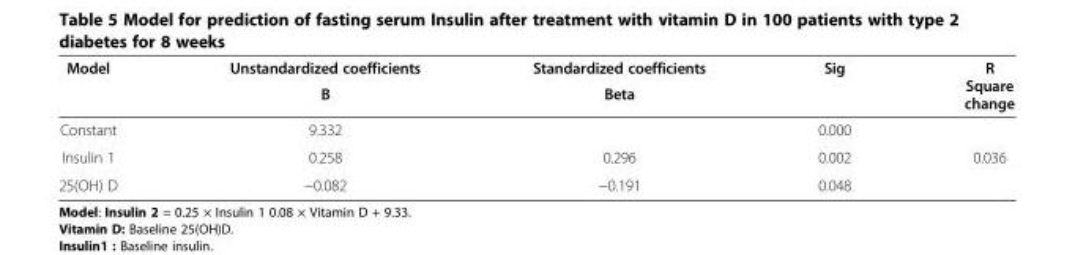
<table><thead><tr><td rowspan="2">Model</td><td rowspan="2">Unstandardized coefficients B</td><td rowspan="2">Standardized coefficients Beta</td><td rowspan="2">Sig</td><td rowspan="2">R Square change</td></tr><tr></tr></thead><tbody><tr><td>Constant</td><td>9.332</td><td></td><td>0.000</td><td></td></tr><tr><td>Insulin 1</td><td>0.258</td><td>0.296</td><td>0.002</td><td>0.036</td></tr><tr><td>25(OH) D</td><td>−0.082</td><td>−0.191</td><td>0.048</td><td></td></tr></tbody></table>